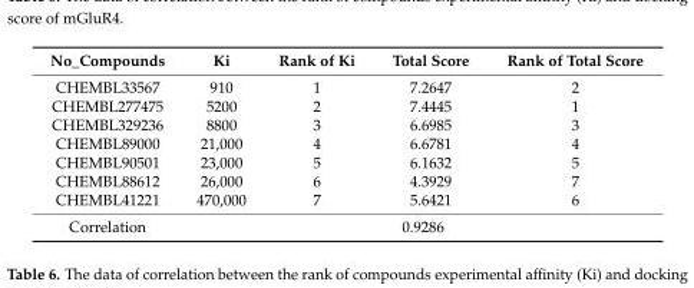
<table><thead><tr><td>No_Compounds</td><td>Ki</td><td>Rank of Ki</td><td>Total Score</td><td>Rank of Total Score</td></tr></thead><tbody><tr><td>CHEMBL33567</td><td>910</td><td>1</td><td>7.2647</td><td>2</td></tr><tr><td>CHEMBL277475</td><td>5200</td><td>2</td><td>7.4445</td><td>1</td></tr><tr><td>CHEMBL329236</td><td>8800</td><td>3</td><td>6.6985</td><td>3</td></tr><tr><td>CHEMBL89000</td><td>21,000</td><td>4</td><td>6.6781</td><td>4</td></tr><tr><td>CHEMBL90501</td><td>23,000</td><td>5</td><td>6.1632</td><td>5</td></tr><tr><td>CHEMBL88612</td><td>26,000</td><td>6</td><td>4.3929</td><td>7</td></tr><tr><td>CHEMBL41221</td><td>470,000</td><td>7</td><td>5.6421</td><td>6</td></tr><tr><td>Correlation</td><td colspan="4">0.9286</td></tr></tbody></table>